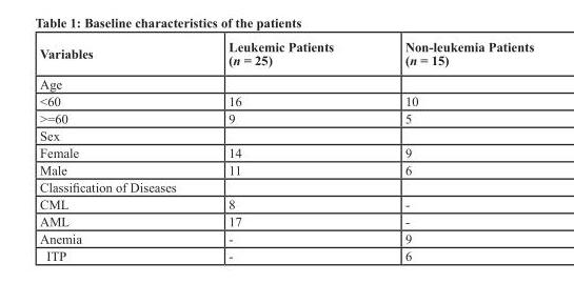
<table><thead><tr><td>Variables</td><td>Leukemic Patients (n = 25)</td><td>Non-leukemia Patients (n = 15)</td></tr></thead><tbody><tr><td colspan="3">Age</td></tr><tr><td>&lt;60</td><td>16</td><td>10</td></tr><tr><td>&gt;=60</td><td>9</td><td>5</td></tr><tr><td colspan="3">Sex</td></tr><tr><td>Female</td><td>14</td><td>9</td></tr><tr><td>Male</td><td>11</td><td>6</td></tr><tr><td colspan="3">Classification of Diseases</td></tr><tr><td>CML</td><td>8</td><td>-</td></tr><tr><td>AML</td><td>17</td><td>-</td></tr><tr><td>Anemia</td><td>-</td><td>9</td></tr><tr><td>ITP</td><td>-</td><td>6</td></tr></tbody></table>